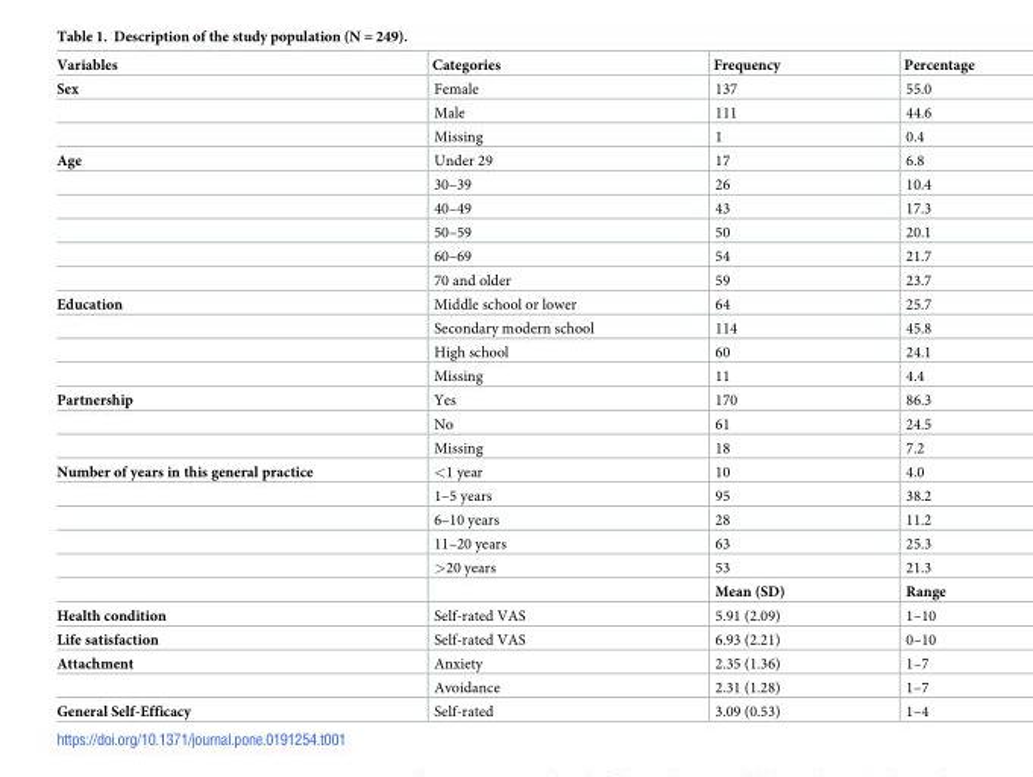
<table><thead><tr><td>Variables</td><td>Categories</td><td>Frequency</td><td>Percentage</td></tr></thead><tbody><tr><td rowspan="3">Sex</td><td>Female</td><td>137</td><td>55.0</td></tr><tr><td>Male</td><td>111</td><td>44.6</td></tr><tr><td>Missing</td><td>1</td><td>0.4</td></tr><tr><td rowspan="6">Age</td><td>Under 29</td><td>17</td><td>6.8</td></tr><tr><td>30–39</td><td>26</td><td>10.4</td></tr><tr><td>40–49</td><td>43</td><td>17.3</td></tr><tr><td>50–59</td><td>50</td><td>20.1</td></tr><tr><td>60–69</td><td>54</td><td>21.7</td></tr><tr><td>70 and older</td><td>59</td><td>23.7</td></tr><tr><td rowspan="4">Education</td><td>Middle school or lower</td><td>64</td><td>25.7</td></tr><tr><td>Secondary modern school</td><td>114</td><td>45.8</td></tr><tr><td>High school</td><td>60</td><td>24.1</td></tr><tr><td>Missing</td><td>11</td><td>4.4</td></tr><tr><td rowspan="3">Partnership</td><td>Yes</td><td>170</td><td>86.3</td></tr><tr><td>No</td><td>61</td><td>24.5</td></tr><tr><td>Missing</td><td>18</td><td>7.2</td></tr><tr><td rowspan="6">Number of years in this general practice</td><td>&lt;1 year</td><td>10</td><td>4.0</td></tr><tr><td>1–5 years</td><td>95</td><td>38.2</td></tr><tr><td>6–10 years</td><td>28</td><td>11.2</td></tr><tr><td>11–20 years</td><td>63</td><td>25.3</td></tr><tr><td>&gt;20 years</td><td>53</td><td>21.3</td></tr><tr><td></td><td>Mean (SD)</td><td>Range</td></tr><tr><td>Health condition</td><td>Self-rated VAS</td><td>5.91 (2.09)</td><td>1–10</td></tr><tr><td>Life satisfaction</td><td>Self-rated VAS</td><td>6.93 (2.21)</td><td>0–10</td></tr><tr><td rowspan="2">Attachment</td><td>Anxiety</td><td>2.35 (1.36)</td><td>1–7</td></tr><tr><td>Avoidance</td><td>2.31 (1.28)</td><td>1–7</td></tr><tr><td>General Self-Efficacy</td><td>Self-rated</td><td>3.09 (0.53)</td><td>1–4</td></tr></tbody></table>